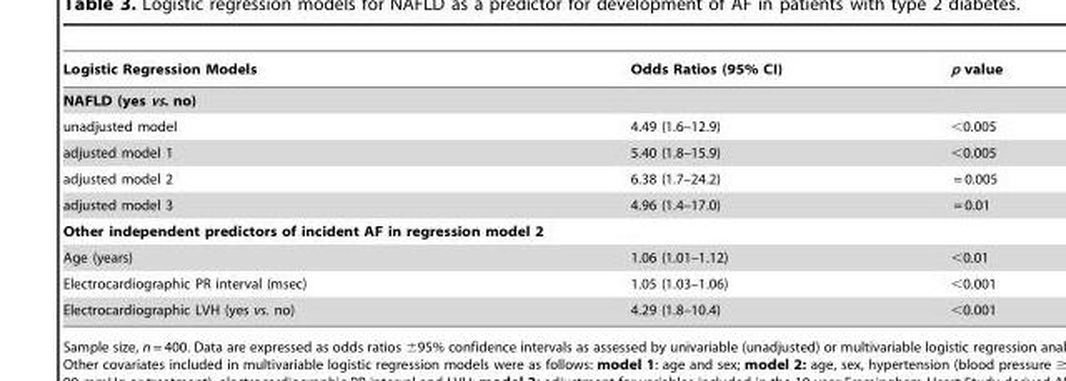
<table><thead><tr><td>Logistic Regression Models</td><td>Odds Ratios (95% CI)</td><td>p value</td></tr></thead><tbody><tr><td colspan="3">NAFLD (yes vs. no)</td></tr><tr><td>unadjusted model</td><td>4.49 (1.6–12.9)</td><td>&lt;0.005</td></tr><tr><td>adjusted model 1</td><td>5.40 (1.8–15.9)</td><td>&lt;0.005</td></tr><tr><td>adjusted model 2</td><td>6.38 (1.7–24.2)</td><td>= 0.005</td></tr><tr><td>adjusted model 3</td><td>4.96 (1.4–17.0)</td><td>= 0.01</td></tr><tr><td colspan="3">Other independent predictors of incident AF in regression model 2</td></tr><tr><td>Age (years)</td><td>1.06 (1.01–1.12)</td><td>&lt;0.01</td></tr><tr><td>Electrocardiographic PR interval (msec)</td><td>1.05 (1.03–1.06)</td><td>&lt;0.001</td></tr><tr><td>Electrocardiographic LVH (yes vs. no)</td><td>4.29 (1.8–10.4)</td><td>&lt;0.001</td></tr></tbody></table>